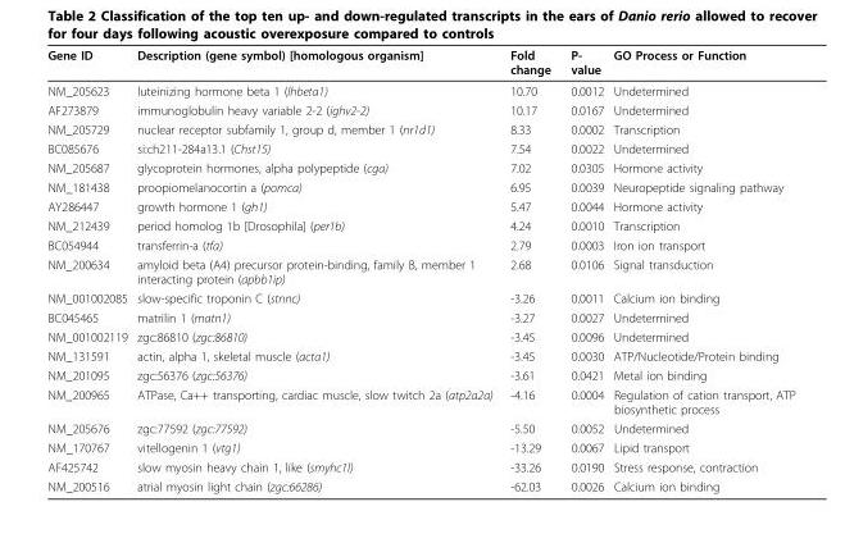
<table><thead><tr><td>Gene ID</td><td>Description (gene symbol) [homologous organism]</td><td>Fold change</td><td>P- value</td><td>GO Process or Function</td></tr></thead><tbody><tr><td>NM_205623</td><td>luteinizing hormone beta 1 (lhbeta1)</td><td>10.70</td><td>0.0012</td><td>Undetermined</td></tr><tr><td>AF273879</td><td>immunoglobulin heavy variable 2-2 (ighv2-2)</td><td>10.17</td><td>0.0167</td><td>Undetermined</td></tr><tr><td>NM_205729</td><td>nuclear receptor subfamily 1, group d, member 1 (nr1d1)</td><td>8.33</td><td>0.0002</td><td>Transcription</td></tr><tr><td>BC085676</td><td>si:ch211-284a13.1 (Chst15)</td><td>7.54</td><td>0.0022</td><td>Undetermined</td></tr><tr><td>NM_205687</td><td>glycoprotein hormones, alpha polypeptide (cga)</td><td>7.02</td><td>0.0305</td><td>Hormone activity</td></tr><tr><td>NM_181438</td><td>proopiomelanocortin a (pomca)</td><td>6.95</td><td>0.0039</td><td>Neuropeptide signaling pathway</td></tr><tr><td>AY286447</td><td>growth hormone 1 (gh1)</td><td>5.47</td><td>0.0044</td><td>Hormone activity</td></tr><tr><td>NM_212439</td><td>period homolog 1b [Drosophila] (per1b)</td><td>4.24</td><td>0.0010</td><td>Transcription</td></tr><tr><td>BC054944</td><td>transferrin-a (tfa)</td><td>2.79</td><td>0.0003</td><td>Iron ion transport</td></tr><tr><td>NM_200634</td><td>amyloid beta (A4) precursor protein-binding, family B, member 1 interacting protein (apbb1ip)</td><td>2.68</td><td>0.0106</td><td>Signal transduction</td></tr><tr><td>NM_001002085</td><td>slow-specific troponin C (stnnc)</td><td>-3.26</td><td>0.0011</td><td>Calcium ion binding</td></tr><tr><td>BC045465</td><td>matrilin 1 (matn1)</td><td>-3.27</td><td>0.0027</td><td>Undetermined</td></tr><tr><td>NM_001002119</td><td>zgc:86810 (zgc:86810)</td><td>-3.45</td><td>0.0096</td><td>Undetermined</td></tr><tr><td>NM_131591</td><td>actin, alpha 1, skeletal muscle (acta1)</td><td>-3.45</td><td>0.0030</td><td>ATP/Nucleotide/Protein binding</td></tr><tr><td>NM_201095</td><td>zgc:56376 (zgc:56376)</td><td>-3.61</td><td>0.0421</td><td>Metal ion binding</td></tr><tr><td>NM_200965</td><td>ATPase, Ca++ transporting, cardiac muscle, slow twitch 2a (atp2a2a)</td><td>-4.16</td><td>0.0004</td><td>Regulation of cation transport, ATP biosynthetic process</td></tr><tr><td>NM_205676</td><td>zgc:77592 (zgc:77592)</td><td>-5.50</td><td>0.0052</td><td>Undetermined</td></tr><tr><td>NM_170767</td><td>vitellogenin 1 (vtg1)</td><td>-13.29</td><td>0.0067</td><td>Lipid transport</td></tr><tr><td>AF425742</td><td>slow myosin heavy chain 1, like (smyhc1l)</td><td>-33.26</td><td>0.0190</td><td>Stress response, contraction</td></tr><tr><td>NM_200516</td><td>atrial myosin light chain (zgc:66286)</td><td>-62.03</td><td>0.0026</td><td>Calcium ion binding</td></tr></tbody></table>